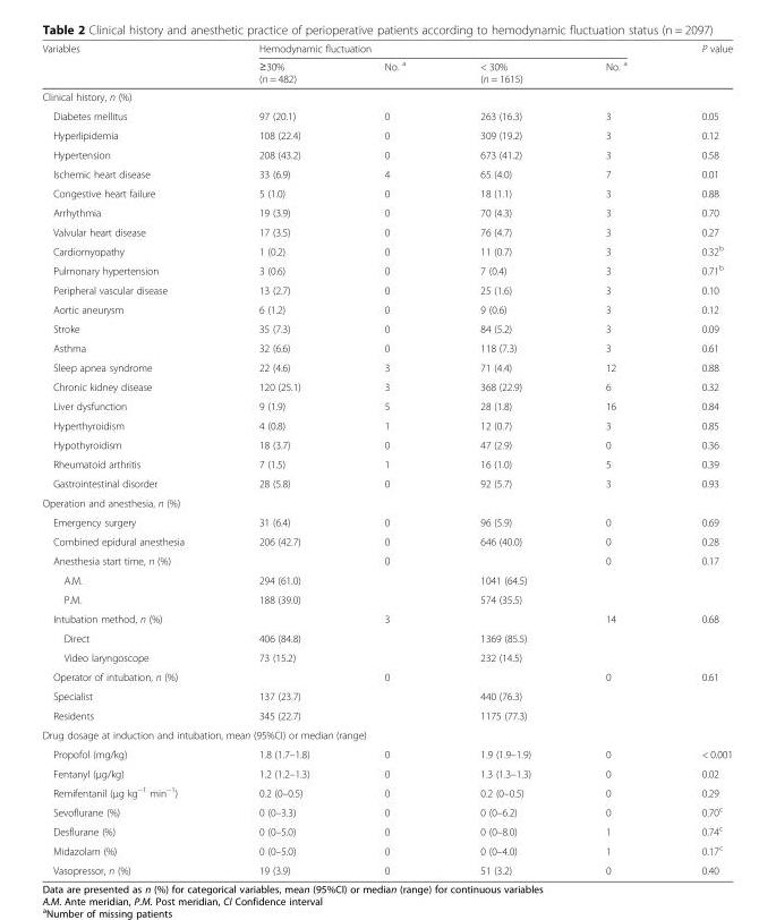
<table><thead><tr><td rowspan="2">Variables</td><td colspan="4">Hemodynamic fluctuation</td><td rowspan="2">P value</td></tr><tr><td>≥30% (n = 482)</td><td>No. <sup>a</sup></td><td>&lt; 30% (n = 1615)</td><td>No. <sup>a</sup></td></tr></thead><tbody><tr><td colspan="6">Clinical history, n (%)</td></tr><tr><td>Diabetes mellitus</td><td>97 (20.1)</td><td>0</td><td>263 (16.3)</td><td>3</td><td>0.05</td></tr><tr><td>Hyperlipidemia</td><td>108 (22.4)</td><td>0</td><td>309 (19.2)</td><td>3</td><td>0.12</td></tr><tr><td>Hypertension</td><td>208 (43.2)</td><td>0</td><td>673 (41.2)</td><td>3</td><td>0.58</td></tr><tr><td>Ischemic heart disease</td><td>33 (6.9)</td><td>4</td><td>65 (4.0)</td><td>7</td><td>0.01</td></tr><tr><td>Congestive heart failure</td><td>5 (1.0)</td><td>0</td><td>18 (1.1)</td><td>3</td><td>0.88</td></tr><tr><td>Arrhythmia</td><td>19 (3.9)</td><td>0</td><td>70 (4.3)</td><td>3</td><td>0.70</td></tr><tr><td>Valvular heart disease</td><td>17 (3.5)</td><td>0</td><td>76 (4.7)</td><td>3</td><td>0.27</td></tr><tr><td>Cardiomyopathy</td><td>1 (0.2)</td><td>0</td><td>11 (0.7)</td><td>3</td><td>0.32<sup>b</sup></td></tr><tr><td>Pulmonary hypertension</td><td>3 (0.6)</td><td>0</td><td>7 (0.4)</td><td>3</td><td>0.71<sup>b</sup></td></tr><tr><td>Peripheral vascular disease</td><td>13 (2.7)</td><td>0</td><td>25 (1.6)</td><td>3</td><td>0.10</td></tr><tr><td>Aortic aneurysm</td><td>6 (1.2)</td><td>0</td><td>9 (0.6)</td><td>3</td><td>0.12</td></tr><tr><td>Stroke</td><td>35 (7.3)</td><td>0</td><td>84 (5.2)</td><td>3</td><td>0.09</td></tr><tr><td>Asthma</td><td>32 (6.6)</td><td>0</td><td>118 (7.3)</td><td>3</td><td>0.61</td></tr><tr><td>Sleep apnea syndrome</td><td>22 (4.6)</td><td>3</td><td>71 (4.4)</td><td>12</td><td>0.88</td></tr><tr><td>Chronic kidney disease</td><td>120 (25.1)</td><td>3</td><td>368 (22.9)</td><td>6</td><td>0.32</td></tr><tr><td>Liver dysfunction</td><td>9 (1.9)</td><td>5</td><td>28 (1.8)</td><td>16</td><td>0.84</td></tr><tr><td>Hyperthyroidism</td><td>4 (0.8)</td><td>1</td><td>12 (0.7)</td><td>3</td><td>0.85</td></tr><tr><td>Hypothyroidism</td><td>18 (3.7)</td><td>0</td><td>47 (2.9)</td><td>0</td><td>0.36</td></tr><tr><td>Rheumatoid arthritis</td><td>7 (1.5)</td><td>1</td><td>16 (1.0)</td><td>5</td><td>0.39</td></tr><tr><td>Gastrointestinal disorder</td><td>28 (5.8)</td><td>0</td><td>92 (5.7)</td><td>3</td><td>0.93</td></tr><tr><td colspan="6">Operation and anesthesia, n (%)</td></tr><tr><td>Emergency surgery</td><td>31 (6.4)</td><td>0</td><td>96 (5.9)</td><td>0</td><td>0.69</td></tr><tr><td>Combined epidural anesthesia</td><td>206 (42.7)</td><td>0</td><td>646 (40.0)</td><td>0</td><td>0.28</td></tr><tr><td>Anesthesia start time, n (%)</td><td></td><td>0</td><td></td><td>0</td><td>0.17</td></tr><tr><td>A.M.</td><td>294 (61.0)</td><td></td><td>1041 (64.5)</td><td></td><td></td></tr><tr><td>P.M.</td><td>188 (39.0)</td><td></td><td>574 (35.5)</td><td></td><td></td></tr><tr><td>Intubation method, n (%)</td><td></td><td>3</td><td></td><td>14</td><td>0.68</td></tr><tr><td>Direct</td><td>406 (84.8)</td><td></td><td>1369 (85.5)</td><td></td><td></td></tr><tr><td>Video laryngoscope</td><td>73 (15.2)</td><td></td><td>232 (14.5)</td><td></td><td></td></tr><tr><td>Operator of intubation, n (%)</td><td></td><td>0</td><td></td><td>0</td><td>0.61</td></tr><tr><td>Specialist</td><td>137 (23.7)</td><td></td><td>440 (76.3)</td><td></td><td></td></tr><tr><td>Residents</td><td>345 (22.7)</td><td></td><td>1175 (77.3)</td><td></td><td></td></tr><tr><td colspan="6">Drug dosage at induction and intubation, mean (95%CI) or median (range)</td></tr><tr><td>Propofol (mg/kg)</td><td>1.8 (1.7–1.8)</td><td>0</td><td>1.9 (1.9–1.9)</td><td>0</td><td>&lt; 0.001</td></tr><tr><td>Fentanyl (μg/kg)</td><td>1.2 (1.2–1.3)</td><td>0</td><td>1.3 (1.3–1.3)</td><td>0</td><td>0.02</td></tr><tr><td>Remifentanil (μg kg<sup>−1</sup> min<sup>−1</sup>)</td><td>0.2 (0–0.5)</td><td>0</td><td>0.2 (0–0.5)</td><td>0</td><td>0.29</td></tr><tr><td>Sevoflurane (%)</td><td>0 (0–3.3)</td><td>0</td><td>0 (0–6.2)</td><td>0</td><td>0.70<sup>c</sup></td></tr><tr><td>Desflurane (%)</td><td>0 (0–5.0)</td><td>0</td><td>0 (0–8.0)</td><td>1</td><td>0.74<sup>c</sup></td></tr><tr><td>Midazolam (%)</td><td>0 (0–5.0)</td><td>0</td><td>0 (0–4.0)</td><td>1</td><td>0.17<sup>c</sup></td></tr><tr><td>Vasopressor, n (%)</td><td>19 (3.9)</td><td>0</td><td>51 (3.2)</td><td>0</td><td>0.40</td></tr></tbody></table>